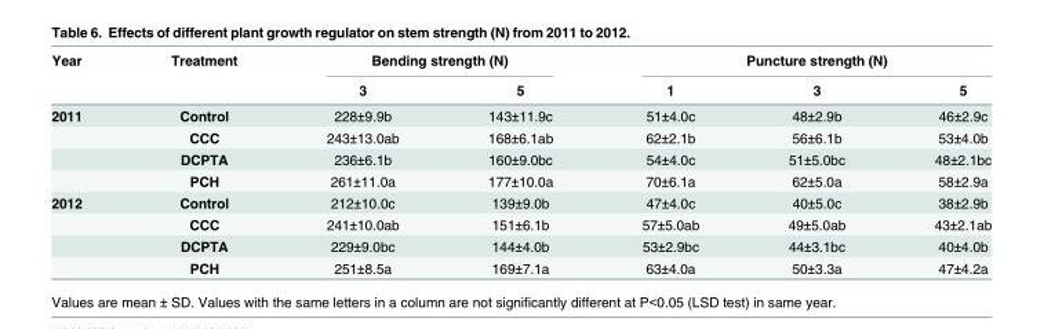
<table><thead><tr><td rowspan="2">Year</td><td rowspan="2">Treatment</td><td colspan="2">Bending strength (N)</td><td colspan="3">Puncture strength (N)</td></tr><tr><td>3</td><td>5</td><td>1</td><td>3</td><td>5</td></tr></thead><tbody><tr><td rowspan="4">2011</td><td>Control</td><td>228±9.9b</td><td>143±11.9c</td><td>51±4.0c</td><td>48±2.9b</td><td>46±2.9c</td></tr><tr><td>CCC</td><td>243±13.0ab</td><td>168±6.1ab</td><td>62±2.1b</td><td>56±6.1b</td><td>53±4.0b</td></tr><tr><td>DCPTA</td><td>236±6.1b</td><td>160±9.0bc</td><td>54±4.0c</td><td>51±5.0bc</td><td>48±2.1bc</td></tr><tr><td>PCH</td><td>261±11.0a</td><td>177±10.0a</td><td>70±6.1a</td><td>62±5.0a</td><td>58±2.9a</td></tr><tr><td rowspan="4">2012</td><td>Control</td><td>212±10.0c</td><td>139±9.0b</td><td>47±4.0c</td><td>40±5.0c</td><td>38±2.9b</td></tr><tr><td>CCC</td><td>241±10.0ab</td><td>151±6.1b</td><td>57±5.0ab</td><td>49±5.0ab</td><td>43±2.1ab</td></tr><tr><td>DCPTA</td><td>229±9.0bc</td><td>144±4.0b</td><td>53±2.9bc</td><td>44±3.1bc</td><td>40±4.0b</td></tr><tr><td>PCH</td><td>251±8.5a</td><td>169±7.1a</td><td>63±4.0a</td><td>50±3.3a</td><td>47±4.2a</td></tr></tbody></table>